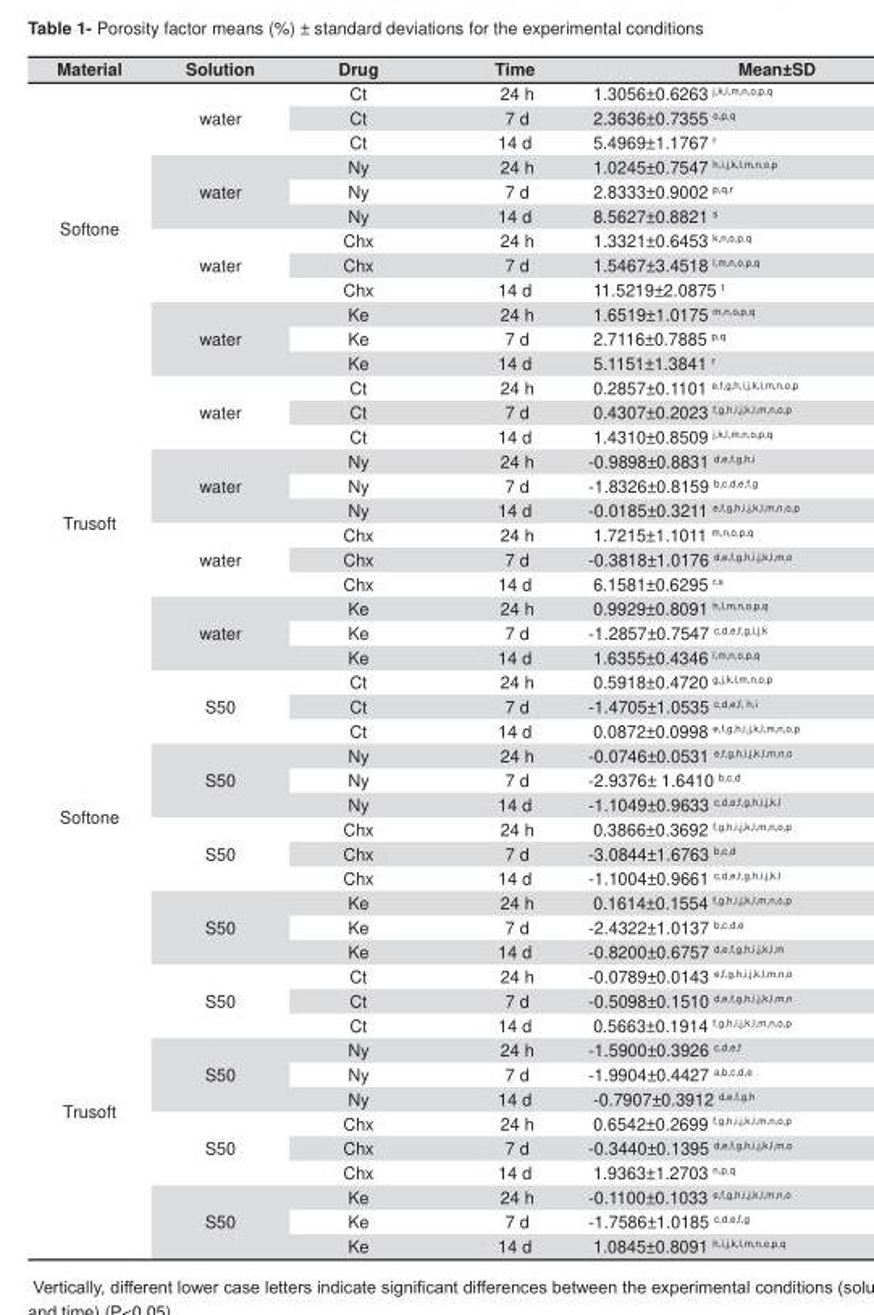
<table><thead><tr><td>Material</td><td>Solution</td><td>Drug</td><td>Time</td><td>Mean±SD</td></tr></thead><tbody><tr><td></td><td></td><td>Ct</td><td>24 h</td><td>1.3056±0.6263 <sup>j,k,l,m,n,o,p,q</sup></td></tr><tr><td></td><td>water</td><td>Ct</td><td>7 d</td><td>2.3636±0.7355 <sup>o,p,q</sup></td></tr><tr><td></td><td></td><td>Ct</td><td>14 d</td><td>5.4969±1.1767 <sup>r</sup></td></tr><tr><td></td><td></td><td>Ny</td><td>24 h</td><td>1.0245±0.7547 <sup>h,i,j,k,l,m,n,o,p</sup></td></tr><tr><td></td><td>water</td><td>Ny</td><td>7 d</td><td>2.8333±0.9002 <sup>p,q,r</sup></td></tr><tr><td rowspan="12">Softone</td><td></td><td>Ny</td><td>14 d</td><td>8.5627±0.8821 <sup>s</sup></td></tr><tr><td></td><td>Chx</td><td>24 h</td><td>1.3321±0.6453 <sup>k,n,o,p,q</sup></td></tr><tr><td>water</td><td>Chx</td><td>7 d</td><td>1.5467±3.4518 <sup>l,m,n,o,p,q</sup></td></tr><tr><td></td><td>Chx</td><td>14 d</td><td>11.5219±2.0875 <sup>t</sup></td></tr><tr><td></td><td>Ke</td><td>24 h</td><td>1.6519±1.0175 <sup>m,n,o,p,q</sup></td></tr><tr><td>water</td><td>Ke</td><td>7 d</td><td>2.7116±0.7885 <sup>p,q</sup></td></tr><tr><td></td><td>Ke</td><td>14 d</td><td>5.1151±1.3841 <sup>r</sup></td></tr><tr><td></td><td>Ct</td><td>24 h</td><td>0.2857±0.1101 <sup>e,f,g,h,i,j,k,l,m,n,o,p</sup></td></tr><tr><td>water</td><td>Ct</td><td>7 d</td><td>0.4307±0.2023 <sup>f,g,h,i,j,k,l,m,n,o,p</sup></td></tr><tr><td></td><td>Ct</td><td>14 d</td><td>1.4310±0.8509 <sup>j,k,l,m,n,o,p,q</sup></td></tr><tr><td></td><td>Ny</td><td>24 h</td><td>-0.9898±0.8831 <sup>d,e,f,g,h,</sup>i</td></tr><tr><td>water</td><td>Ny</td><td>7 d</td><td>-1.8326±0.8159 <sup>b,c,d,e,f,g</sup></td></tr><tr><td rowspan="12">Trusoft</td><td></td><td>Ny</td><td>14 d</td><td>-0.0185±0.3211 <sup>e,f,g,h,i,j,k,l,m,n,o,p</sup></td></tr><tr><td></td><td>Chx</td><td>24 h</td><td>1.7215±1.1011 <sup>m,n,o,p,q</sup></td></tr><tr><td>water</td><td>Chx</td><td>7 d</td><td>-0.3818±1.0176 <sup>d,e,f,g,h,i,j,k,l,m,o</sup></td></tr><tr><td></td><td>Chx</td><td>14 d</td><td>6.1581±0.6295 <sup>r,s</sup></td></tr><tr><td></td><td>Ke</td><td>24 h</td><td>0.9929±0.8091 <sup>h,l,m,n,o,p,q</sup></td></tr><tr><td>water</td><td>Ke</td><td>7 d</td><td>-1.2857±0.7547 <sup>c,d,e,f,g,i,j,k</sup></td></tr><tr><td></td><td>Ke</td><td>14 d</td><td>1.6355±0.4346 <sup>l,m,n,o,p,q</sup></td></tr><tr><td></td><td>Ct</td><td>24 h</td><td>0.5918±0.4720 <sup>g,j,k,l,m,n,o,p</sup></td></tr><tr><td>S50</td><td>Ct</td><td>7 d</td><td>-1.4705±1.0535 <sup>c,d,e,f, h,i</sup></td></tr><tr><td></td><td>Ct</td><td>14 d</td><td>0.0872±0.0998 <sup>e,f,g,h,i,j,k,l,m,n,o,p</sup></td></tr><tr><td></td><td>Ny</td><td>24 h</td><td>-0.0746±0.0531 <sup>e,f,g,h,i,j,k,l,m,n,o</sup></td></tr><tr><td>S50</td><td>Ny</td><td>7 d</td><td>-2.9376± 1.6410 <sup>b,c,d</sup></td></tr><tr><td rowspan="12">Softone</td><td></td><td>Ny</td><td>14 d</td><td>-1.1049±0.9633 <sup>c,d,e,f,g,h,i,j,k,l</sup></td></tr><tr><td></td><td>Chx</td><td>24 h</td><td>0.3866±0.3692 <sup>f,g,h,i,j,k,l,m,n,o,p</sup></td></tr><tr><td>S50</td><td>Chx</td><td>7 d</td><td>-3.0844±1.6763 <sup>b,c,d</sup></td></tr><tr><td></td><td>Chx</td><td>14 d</td><td>-1.1004±0.9661 <sup>c,d,e,f,g,h,i,j,k,l</sup></td></tr><tr><td></td><td>Ke</td><td>24 h</td><td>0.1614±0.1554 <sup>f,g,h,i,j,k,l,m,n,o,p</sup></td></tr><tr><td>S50</td><td>Ke</td><td>7 d</td><td>-2.4322±1.0137 <sup>b,c,d,e</sup></td></tr><tr><td></td><td>Ke</td><td>14 d</td><td>-0.8200±0.6757 <sup>d,e,f,g,h,i,j,k,l,m</sup></td></tr><tr><td></td><td>Ct</td><td>24 h</td><td>-0.0789±0.0143 <sup>e,f,g,h,i,j,k,l,m,n,o</sup></td></tr><tr><td>S50</td><td>Ct</td><td>7 d</td><td>-0.5098±0.1510 <sup>d,e,f,g,h,i,j,k,l,m,n</sup></td></tr><tr><td></td><td>Ct</td><td>14 d</td><td>0.5663±0.1914 <sup>f,g,h,i,j,k,l,m,n,o,p</sup></td></tr><tr><td></td><td>Ny</td><td>24 h</td><td>-1.5900±0.3926 <sup>c,d,e,f</sup></td></tr><tr><td>S50</td><td>Ny</td><td>7 d</td><td>-1.9904±0.4427 <sup>a,b,c,d,e</sup></td></tr><tr><td rowspan="7">Trusoft</td><td></td><td>Ny</td><td>14 d</td><td>-0.7907±0.3912 <sup>d,e,f,g,h</sup></td></tr><tr><td></td><td>Chx</td><td>24 h</td><td>0.6542±0.2699 <sup>f,g,h,i,j,k,l,m,n,o,p</sup></td></tr><tr><td>S50</td><td>Chx</td><td>7 d</td><td>-0.3440±0.1395 <sup>d,e,f,g,h,i,j,k,l,m,o</sup></td></tr><tr><td></td><td>Chx</td><td>14 d</td><td>1.9363±1.2703 <sup>n,p,q</sup></td></tr><tr><td></td><td>Ke</td><td>24 h</td><td>-0.1100±0.1033 <sup>e,f,g,h,i,j,k,l,m,n,o</sup></td></tr><tr><td>S50</td><td>Ke</td><td>7 d</td><td>-1.7586±1.0185 <sup>c,d,e,f,g</sup></td></tr><tr><td></td><td>Ke</td><td>14 d</td><td>1.0845±0.8091 <sup>h,i,j,k,l,m,n,o,p,q</sup></td></tr></tbody></table>